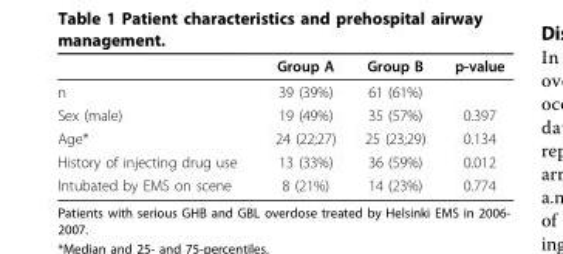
<table><thead><tr><td></td><td>Group A</td><td>Group B</td><td>p-value</td></tr></thead><tbody><tr><td>n</td><td>39 (39%)</td><td>61 (61%)</td><td></td></tr><tr><td>Sex (male)</td><td>19 (49%)</td><td>35 (57%)</td><td>0.397</td></tr><tr><td>Age*</td><td>24 (22;27)</td><td>25 (23;29)</td><td>0.134</td></tr><tr><td>History of injecting drug use</td><td>13 (33%)</td><td>36 (59%)</td><td>0.012</td></tr><tr><td>Intubated by EMS on scene</td><td>8 (21%)</td><td>14 (23%)</td><td>0.774</td></tr></tbody></table>